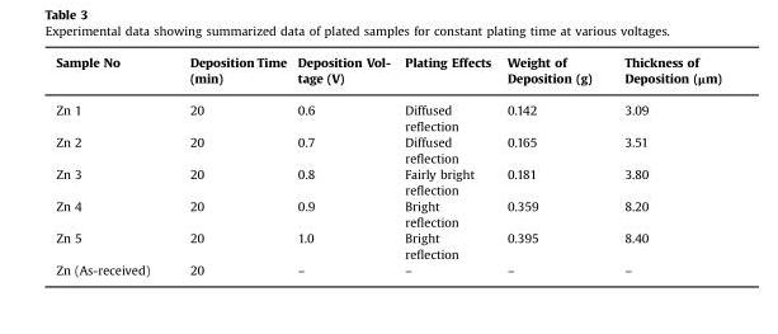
<table><thead><tr><td>Sample No</td><td>Deposition Time (min)</td><td>Deposition Vol- tage (V)</td><td>Plating Effects</td><td>Weight of Deposition (g)</td><td>Thickness of Deposition (μm)</td></tr></thead><tbody><tr><td>Zn 1</td><td>20</td><td>0.6</td><td>Diffused reflection</td><td>0.142</td><td>3.09</td></tr><tr><td>Zn 2</td><td>20</td><td>0.7</td><td>Diffused reflection</td><td>0.165</td><td>3.51</td></tr><tr><td>Zn 3</td><td>20</td><td>0.8</td><td>Fairly bright reflection</td><td>0.181</td><td>3.80</td></tr><tr><td>Zn 4</td><td>20</td><td>0.9</td><td>Bright reflection</td><td>0.359</td><td>8.20</td></tr><tr><td>Zn 5</td><td>20</td><td>1.0</td><td>Bright reflection</td><td>0.395</td><td>8.40</td></tr><tr><td>Zn (As-received)</td><td>20</td><td>–</td><td>–</td><td>–</td><td>–</td></tr></tbody></table>